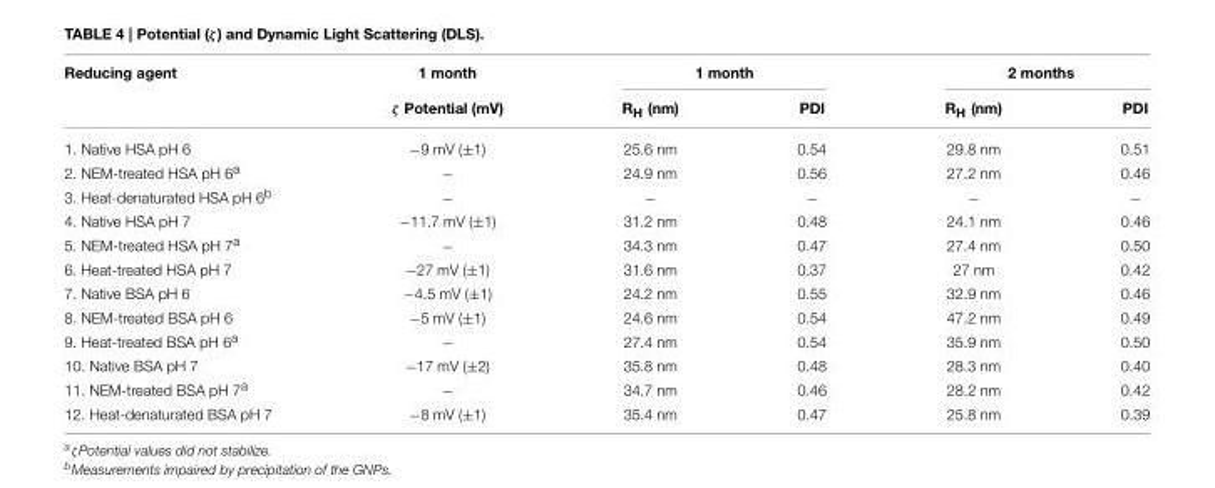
<table><thead><tr><td rowspan="2">Reducing agent</td><td rowspan="2">1 month ζ Potential (mV)</td><td colspan="2">1 month</td><td colspan="2">2 months</td></tr><tr><td>R<sub>H</sub> (nm)</td><td>PDI</td><td>R<sub>H</sub> (nm)</td><td>PDI</td></tr></thead><tbody><tr><td>1. Native HSA pH 6</td><td>−9 mV (±1)</td><td>25.6 nm</td><td>0.54</td><td>29.8 nm</td><td>0.51</td></tr><tr><td>2. NEM-treated HSA pH 6<sup>a</sup></td><td>−</td><td>24.9 nm</td><td>0.56</td><td>27.2 nm</td><td>0.46</td></tr><tr><td>3. Heat-denaturated HSA pH 6<sup>b</sup></td><td>−</td><td>−</td><td>−</td><td>−</td><td>−</td></tr><tr><td>4. Native HSA pH 7</td><td>−11.7 mV (±1)</td><td>31.2 nm</td><td>0.48</td><td>24.1 nm</td><td>0.46</td></tr><tr><td>5. NEM-treated HSA pH 7<sup>a</sup></td><td>−</td><td>34.3 nm</td><td>0.47</td><td>27.4 nm</td><td>0.50</td></tr><tr><td>6. Heat-treated HSA pH 7</td><td>−27 mV (±1)</td><td>31.6 nm</td><td>0.37</td><td>27 nm</td><td>0.42</td></tr><tr><td>7. Native BSA pH 6</td><td>−4.5 mV (±1)</td><td>24.2 nm</td><td>0.55</td><td>32.9 nm</td><td>0.46</td></tr><tr><td>8. NEM-treated BSA pH 6</td><td>−5 mV (±1)</td><td>24.6 nm</td><td>0.54</td><td>47.2 nm</td><td>0.49</td></tr><tr><td>9. Heat-treated BSA pH 6<sup>a</sup></td><td>−</td><td>27.4 nm</td><td>0.54</td><td>35.9 nm</td><td>0.50</td></tr><tr><td>10. Native BSA pH 7</td><td>−17 mV (±2)</td><td>35.8 nm</td><td>0.48</td><td>28.3 nm</td><td>0.40</td></tr><tr><td>11. NEM-treated BSA pH 7<sup>a</sup></td><td>−</td><td>34.7 nm</td><td>0.46</td><td>28.2 nm</td><td>0.42</td></tr><tr><td>12. Heat-denaturated BSA pH 7</td><td>−8 mV (±1)</td><td>35.4 nm</td><td>0.47</td><td>25.8 nm</td><td>0.39</td></tr></tbody></table>